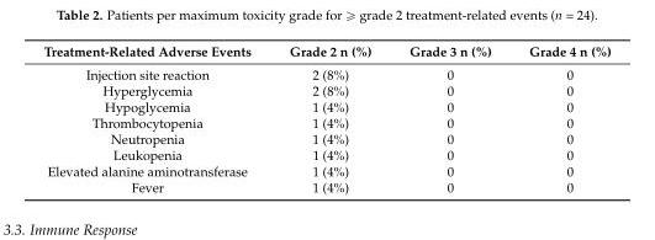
<table><thead><tr><td>Treatment-Related Adverse Events</td><td>Grade 2 n (%)</td><td>Grade 3 n (%)</td><td>Grade 4 n (%)</td></tr></thead><tbody><tr><td>Injection site reaction</td><td>2 (8%)</td><td>0</td><td>0</td></tr><tr><td>Hyperglycemia</td><td>2 (8%)</td><td>0</td><td>0</td></tr><tr><td>Hypoglycemia</td><td>1 (4%)</td><td>0</td><td>0</td></tr><tr><td>Thrombocytopenia</td><td>1 (4%)</td><td>0</td><td>0</td></tr><tr><td>Neutropenia</td><td>1 (4%)</td><td>0</td><td>0</td></tr><tr><td>Leukopenia</td><td>1 (4%)</td><td>0</td><td>0</td></tr><tr><td>Elevated alanine aminotransferase</td><td>1 (4%)</td><td>0</td><td>0</td></tr><tr><td>Fever</td><td>1 (4%)</td><td>0</td><td>0</td></tr></tbody></table>